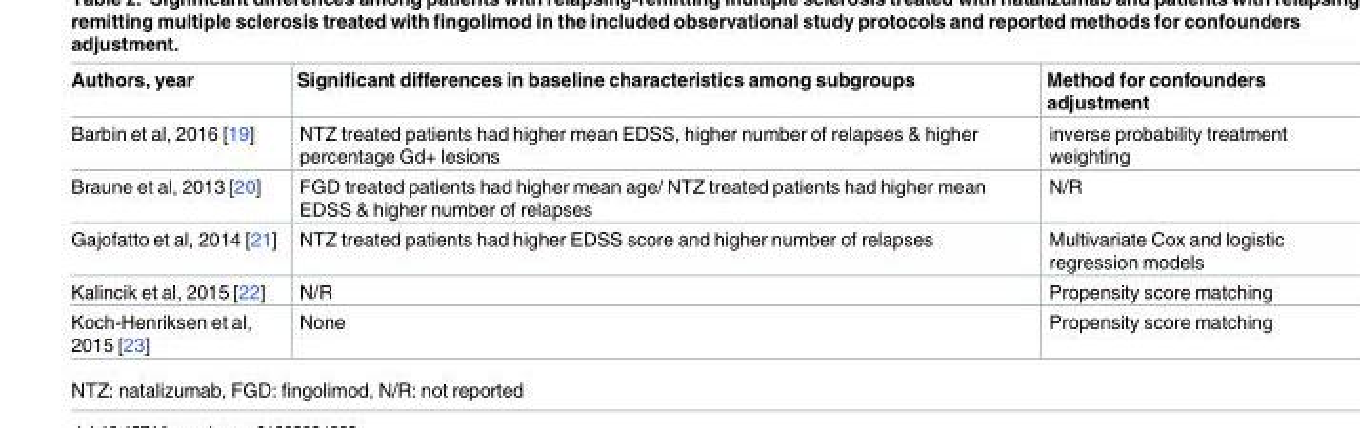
<table><thead><tr><td>Authors, year</td><td>Significant differences in baseline characteristics among subgroups</td><td>Method for confounders adjustment</td></tr></thead><tbody><tr><td>Barbin et al, 2016 [19]</td><td>NTZ treated patients had higher mean EDSS, higher number of relapses &amp; higher percentage Gd+ lesions</td><td>inverse probability treatment weighting</td></tr><tr><td>Braune et al, 2013 [20]</td><td>FGD treated patients had higher mean age/ NTZ treated patients had higher mean EDSS &amp; higher number of relapses</td><td>N/R</td></tr><tr><td>Gajofatto et al, 2014 [21]</td><td>NTZ treated patients had higher EDSS score and higher number of relapses</td><td>Multivariate Cox and logistic regression models</td></tr><tr><td>Kalincik et al, 2015 [22]</td><td>N/R</td><td>Propensity score matching</td></tr><tr><td>Koch-Henriksen et al, 2015 [23]</td><td>None</td><td>Propensity score matching</td></tr></tbody></table>